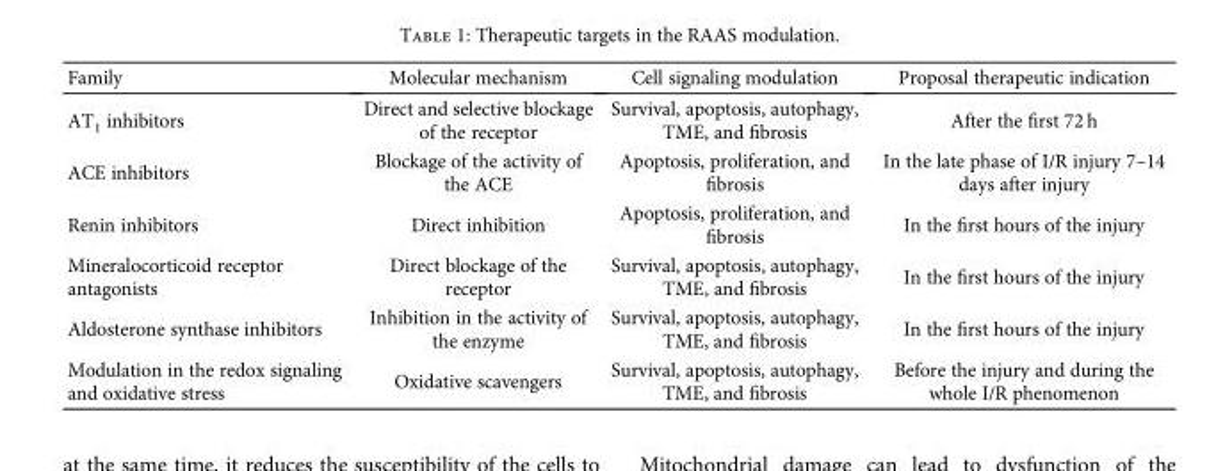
<table><thead><tr><td>Family</td><td>Molecular mechanism</td><td>Cell signaling modulation</td><td>Proposal therapeutic indication</td></tr></thead><tbody><tr><td>AT<sub>1</sub> inhibitors</td><td>Direct and selective blockage of the receptor</td><td>Survival, apoptosis, autophagy, TME, and fibrosis</td><td>After the first 72 h</td></tr><tr><td>ACE inhibitors</td><td>Blockage of the activity of the ACE</td><td>Apoptosis, proliferation, and fibrosis</td><td>In the late phase of I/R injury 7–14 days after injury</td></tr><tr><td>Renin inhibitors</td><td>Direct inhibition</td><td>Apoptosis, proliferation, and fibrosis</td><td>In the first hours of the injury</td></tr><tr><td>Mineralocorticoid receptor antagonists</td><td>Direct blockage of the receptor</td><td>Survival, apoptosis, autophagy, TME, and fibrosis</td><td>In the first hours of the injury</td></tr><tr><td>Aldosterone synthase inhibitors</td><td>Inhibition in the activity of the enzyme</td><td>Survival, apoptosis, autophagy, TME, and fibrosis</td><td>In the first hours of the injury</td></tr><tr><td>Modulation in the redox signaling and oxidative stress</td><td>Oxidative scavengers</td><td>Survival, apoptosis, autophagy, TME, and fibrosis</td><td>Before the injury and during the whole I/R phenomenon</td></tr></tbody></table>